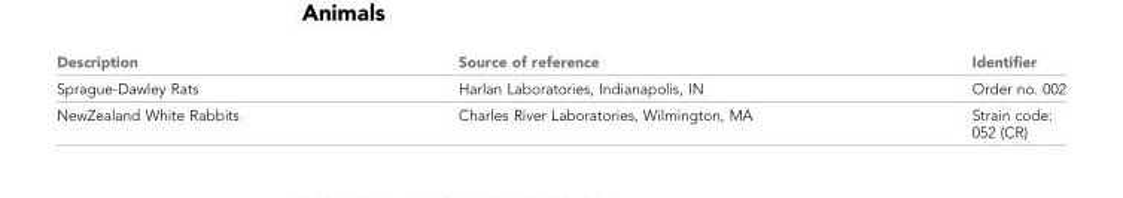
<table><thead><tr><td>Description</td><td>Source of reference</td><td>Identifier</td></tr></thead><tbody><tr><td>Sprague-Dawley Rats</td><td>Harlan Laboratories, Indianapolis, IN</td><td>Order no. 002</td></tr><tr><td>NewZealand White Rabbits</td><td>Charles River Laboratories, Wilmington, MA</td><td>Strain code: 052 (CR)</td></tr></tbody></table>